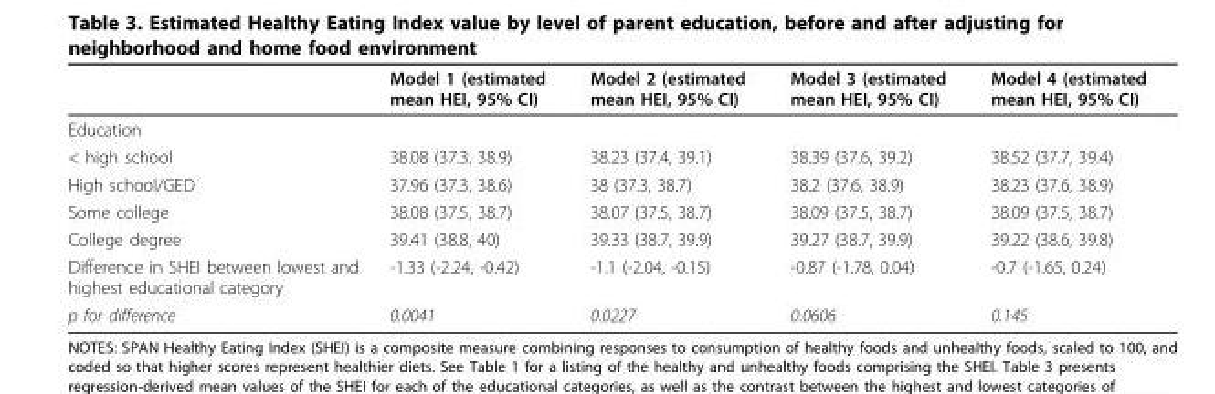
<table><thead><tr><td></td><td>Model 1 (estimated mean HEI, 95% CI)</td><td>Model 2 (estimated mean HEI, 95% CI)</td><td>Model 3 (estimated mean HEI, 95% CI)</td><td>Model 4 (estimated mean HEI, 95% CI)</td></tr></thead><tbody><tr><td colspan="5">Education</td></tr><tr><td>&lt; high school</td><td>38.08 (37.3, 38.9)</td><td>38.23 (37.4, 39.1)</td><td>38.39 (37.6, 39.2)</td><td>38.52 (37.7, 39.4)</td></tr><tr><td>High school/GED</td><td>37.96 (37.3, 38.6)</td><td>38 (37.3, 38.7)</td><td>38.2 (37.6, 38.9)</td><td>38.23 (37.6, 38.9)</td></tr><tr><td>Some college</td><td>38.08 (37.5, 38.7)</td><td>38.07 (37.5, 38.7)</td><td>38.09 (37.5, 38.7)</td><td>38.09 (37.5, 38.7)</td></tr><tr><td>College degree</td><td>39.41 (38.8, 40)</td><td>39.33 (38.7, 39.9)</td><td>39.27 (38.7, 39.9)</td><td>39.22 (38.6, 39.8)</td></tr><tr><td>Difference in SHEI between lowest and highest educational category</td><td>-1.33 (-2.24, -0.42)</td><td>-1.1 (-2.04, -0.15)</td><td>-0.87 (-1.78, 0.04)</td><td>-0.7 (-1.65, 0.24)</td></tr><tr><td>p for difference</td><td>0.0041</td><td>0.0227</td><td>0.0606</td><td>0.145</td></tr></tbody></table>